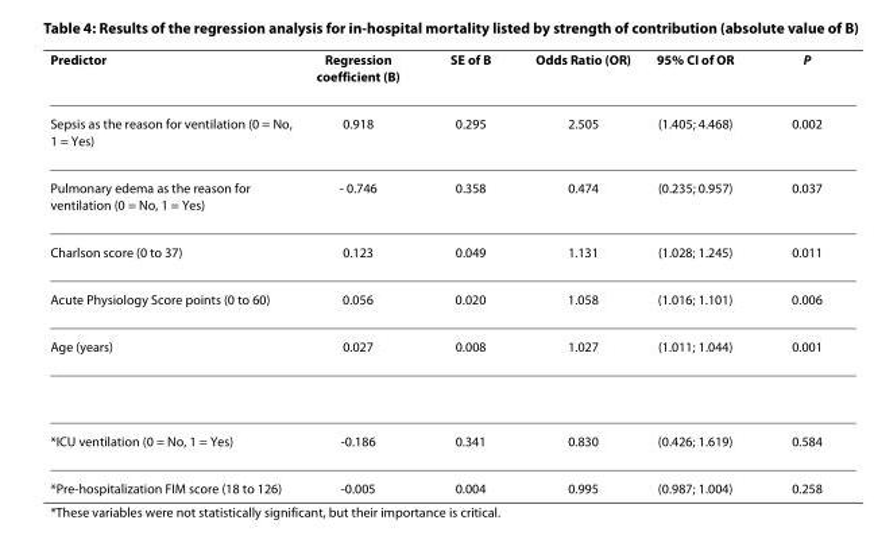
<table><thead><tr><td>Predictor</td><td>Regression coefficient (B)</td><td>SE of B</td><td>Odds Ratio (OR)</td><td>95% CI of OR</td><td>P</td></tr></thead><tbody><tr><td>Sepsis as the reason for ventilation (0 = No, 1 = Yes)</td><td>0.918</td><td>0.295</td><td>2.505</td><td>(1.405; 4.468)</td><td>0.002</td></tr><tr><td>Pulmonary edema as the reason for ventilation (0 = No, 1 = Yes)</td><td>- 0.746</td><td>0.358</td><td>0.474</td><td>(0.235; 0.957)</td><td>0.037</td></tr><tr><td>Charlson score (0 to 37)</td><td>0.123</td><td>0.049</td><td>1.131</td><td>(1.028; 1.245)</td><td>0.011</td></tr><tr><td>Acute Physiology Score points (0 to 60)</td><td>0.056</td><td>0.020</td><td>1.058</td><td>(1.016; 1.101)</td><td>0.006</td></tr><tr><td>Age (years)</td><td>0.027</td><td>0.008</td><td>1.027</td><td>(1.011; 1.044)</td><td>0.001</td></tr><tr><td>*ICU ventilation (0 = No, 1 = Yes)</td><td>-0.186</td><td>0.341</td><td>0.830</td><td>(0.426; 1.619)</td><td>0.584</td></tr><tr><td>*Pre-hospitalization FIM score (18 to 126)</td><td>-0.005</td><td>0.004</td><td>0.995</td><td>(0.987; 1.004)</td><td>0.258</td></tr></tbody></table>